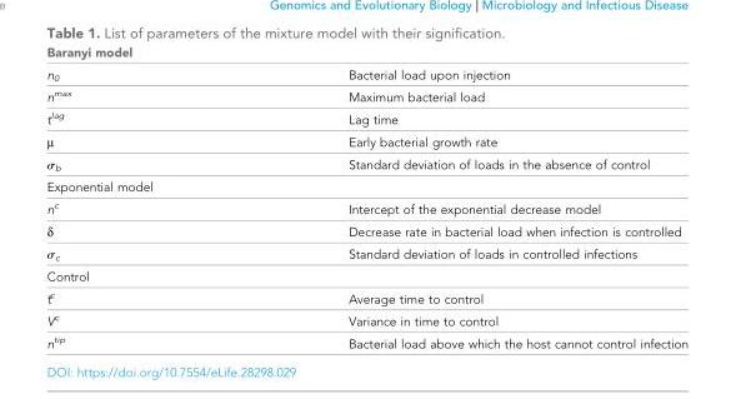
<table><thead><tr><td colspan="2">Baranyi model</td></tr><tr><td>n<sub>0</sub></td><td>Bacterial load upon injection</td></tr></thead><tbody><tr><td>n<sup>max</sup></td><td>Maximum bacterial load</td></tr><tr><td>t<sup>lag</sup></td><td>Lag time</td></tr><tr><td>µ</td><td>Early bacterial growth rate</td></tr><tr><td>σ<sub>b</sub></td><td>Standard deviation of loads in the absence of control</td></tr><tr><td colspan="2">Exponential model</td></tr><tr><td>n<sup>c</sup></td><td>Intercept of the exponential decrease model</td></tr><tr><td>δ</td><td>Decrease rate in bacterial load when infection is controlled</td></tr><tr><td>σ<sub>c</sub></td><td>Standard deviation of loads in controlled infections</td></tr><tr><td colspan="2">Control</td></tr><tr><td>t�c</td><td>Average time to control</td></tr><tr><td>V<sup>c</sup></td><td>Variance in time to control</td></tr><tr><td>n<sup>tip</sup></td><td>Bacterial load above which the host cannot control infection</td></tr></tbody></table>